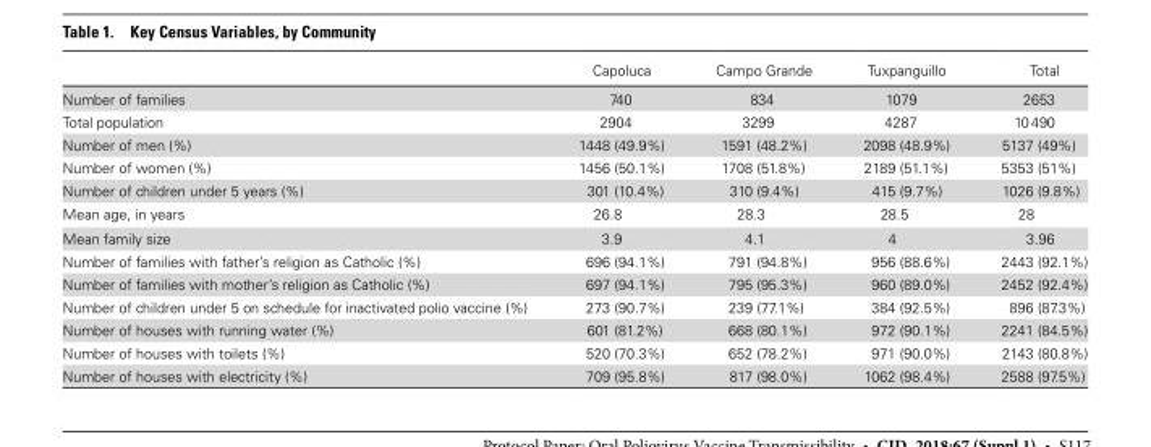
<table><thead><tr><td></td><td>Capoluca</td><td>Campo Grande</td><td>Tuxpanguillo</td><td>Total</td></tr></thead><tbody><tr><td>Number of families</td><td>740</td><td>834</td><td>1079</td><td>2653</td></tr><tr><td>Total population</td><td>2904</td><td>3299</td><td>4287</td><td>10 490</td></tr><tr><td>Number of men (%)</td><td>1448 (49.9%)</td><td>1591 (48.2%)</td><td>2098 (48.9%)</td><td>5137 (49%)</td></tr><tr><td>Number of women (%)</td><td>1456 (50.1%)</td><td>1708 (51.8%)</td><td>2189 (51.1%)</td><td>5353 (51%)</td></tr><tr><td>Number of children under 5 years (%)</td><td>301 (10.4%)</td><td>310 (9.4%)</td><td>415 (9.7%)</td><td>1026 (9.8%)</td></tr><tr><td>Mean age, in years</td><td>26.8</td><td>28.3</td><td>28.5</td><td>28</td></tr><tr><td>Mean family size</td><td>3.9</td><td>4.1</td><td>4</td><td>3.96</td></tr><tr><td>Number of families with father’s religion as Catholic (%)</td><td>696 (94.1%)</td><td>791 (94.8%)</td><td>956 (88.6%)</td><td>2443 (92.1%)</td></tr><tr><td>Number of families with mother’s religion as Catholic (%)</td><td>697 (94.1%)</td><td>795 (95.3%)</td><td>960 (89.0%)</td><td>2452 (92.4%)</td></tr><tr><td>Number of children under 5 on schedule for inactivated polio vaccine (%)</td><td>273 (90.7%)</td><td>239 (77.1%)</td><td>384 (92.5%)</td><td>896 (87.3%)</td></tr><tr><td>Number of houses with running water (%)</td><td>601 (81.2%)</td><td>668 (80.1%)</td><td>972 (90.1%)</td><td>2241 (84.5%)</td></tr><tr><td>Number of houses with toilets (%)</td><td>520 (70.3%)</td><td>652 (78.2%)</td><td>971 (90.0%)</td><td>2143 (80.8%)</td></tr><tr><td>Number of houses with electricity (%)</td><td>709 (95.8%)</td><td>817 (98.0%)</td><td>1062 (98.4%)</td><td>2588 (97.5%)</td></tr></tbody></table>